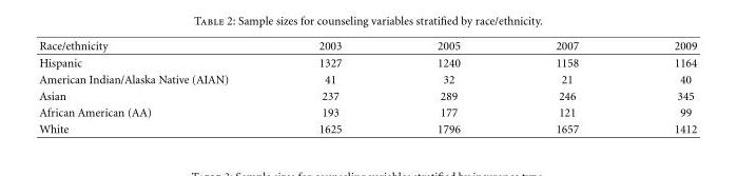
<table><thead><tr><td>Race/ethnicity</td><td>2003</td><td>2005</td><td>2007</td><td>2009</td></tr></thead><tbody><tr><td>Hispanic</td><td>1327</td><td>1240</td><td>1158</td><td>1164</td></tr><tr><td>American Indian/Alaska Native (AIAN)</td><td>41</td><td>32</td><td>21</td><td>40</td></tr><tr><td>Asian</td><td>237</td><td>289</td><td>246</td><td>345</td></tr><tr><td>African American (AA)</td><td>193</td><td>177</td><td>121</td><td>99</td></tr><tr><td>White</td><td>1625</td><td>1796</td><td>1657</td><td>1412</td></tr></tbody></table>